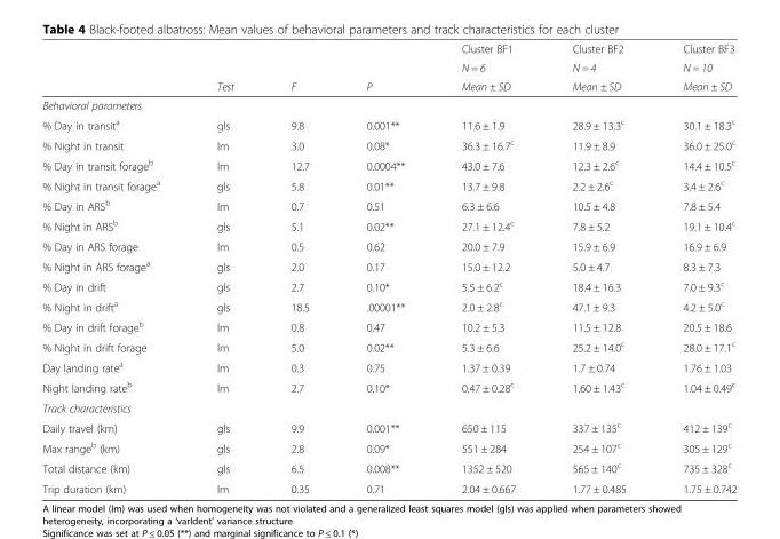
<table><thead><tr><td rowspan="3"></td><td rowspan="3">Test</td><td rowspan="3">F</td><td rowspan="3">P</td><td rowspan="3">Cluster BF1 N = 6 Mean ± SD</td><td rowspan="3">Cluster BF2 N = 4 Mean ± SD</td><td rowspan="3">Cluster BF3 N = 10 Mean ± SD</td></tr><tr></tr><tr></tr></thead><tbody><tr><td colspan="7">Behavioral parameters</td></tr><tr><td>% Day in transit<sup>a</sup></td><td>gls</td><td>9.8</td><td>0.001**</td><td>11.6 ± 1.9</td><td>28.9 ± 13.3<sup>c</sup></td><td>30.1 ± 18.3<sup>c</sup></td></tr><tr><td>% Night in transit</td><td>lm</td><td>3.0</td><td>0.08*</td><td>36.3 ± 16.7<sup>c</sup></td><td>11.9 ± 8.9</td><td>36.0 ± 25.0<sup>c</sup></td></tr><tr><td>% Day in transit forage<sup>b</sup></td><td>lm</td><td>12.7</td><td>0.0004**</td><td>43.0 ± 7.6</td><td>12.3 ± 2.6<sup>c</sup></td><td>14.4 ± 10.5<sup>c</sup></td></tr><tr><td>% Night in transit forage<sup>a</sup></td><td>gls</td><td>5.8</td><td>0.01**</td><td>13.7 ± 9.8</td><td>2.2 ± 2.6<sup>c</sup></td><td>3.4 ± 2.6<sup>c</sup></td></tr><tr><td>% Day in ARS<sup>b</sup></td><td>lm</td><td>0.7</td><td>0.51</td><td>6.3 ± 6.6</td><td>10.5 ± 4.8</td><td>7.8 ± 5.4</td></tr><tr><td>% Night in ARS<sup>b</sup></td><td>gls</td><td>5.1</td><td>0.02**</td><td>27.1 ± 12.4<sup>c</sup></td><td>7.8 ± 5.2</td><td>19.1 ± 10.4<sup>c</sup></td></tr><tr><td>% Day in ARS forage</td><td>lm</td><td>0.5</td><td>0.62</td><td>20.0 ± 7.9</td><td>15.9 ± 6.9</td><td>16.9 ± 6.9</td></tr><tr><td>% Night in ARS forage<sup>a</sup></td><td>gls</td><td>2.0</td><td>0.17</td><td>15.0 ± 12.2</td><td>5.0 ± 4.7</td><td>8.3 ± 7.3</td></tr><tr><td>% Day in drift</td><td>gls</td><td>2.7</td><td>0.10*</td><td>5.5 ± 6.2<sup>c</sup></td><td>18.4 ± 16.3</td><td>7.0 ± 9.3<sup>c</sup></td></tr><tr><td>% Night in drift<sup>a</sup></td><td>gls</td><td>18.5</td><td>.00001**</td><td>2.0 ± 2.8<sup>c</sup></td><td>47.1 ± 9.3</td><td>4.2 ± 5.0<sup>c</sup></td></tr><tr><td>% Day in drift forage<sup>b</sup></td><td>lm</td><td>0.8</td><td>0.47</td><td>10.2 ± 5.3</td><td>11.5 ± 12.8</td><td>20.5 ± 18.6</td></tr><tr><td>% Night in drift forage</td><td>lm</td><td>5.0</td><td>0.02**</td><td>5.3 ± 6.6</td><td>25.2 ± 14.0<sup>c</sup></td><td>28.0 ± 17.1<sup>c</sup></td></tr><tr><td>Day landing rate<sup>a</sup></td><td>lm</td><td>0.3</td><td>0.75</td><td>1.37 ± 0.39</td><td>1.7 ± 0.74</td><td>1.76 ± 1.03</td></tr><tr><td>Night landing rate<sup>b</sup></td><td>lm</td><td>2.7</td><td>0.10*</td><td>0.47 ± 0.28<sup>c</sup></td><td>1.60 ± 1.43<sup>c</sup></td><td>1.04 ± 0.49<sup>c</sup></td></tr><tr><td colspan="7">Track characteristics</td></tr><tr><td>Daily travel (km)</td><td>gls</td><td>9.9</td><td>0.001**</td><td>650 ± 115</td><td>337 ± 135<sup>c</sup></td><td>412 ± 139<sup>c</sup></td></tr><tr><td>Max range<sup>b</sup> (km)</td><td>gls</td><td>2.8</td><td>0.09*</td><td>551 ± 284</td><td>254 ± 107<sup>c</sup></td><td>305 ± 129<sup>c</sup></td></tr><tr><td>Total distance (km)</td><td>gls</td><td>6.5</td><td>0.008**</td><td>1352 ± 520</td><td>565 ± 140<sup>c</sup></td><td>735 ± 328<sup>c</sup></td></tr><tr><td>Trip duration (km)</td><td>lm</td><td>0.35</td><td>0.71</td><td>2.04 ± 0.667</td><td>1.77 ± 0.485</td><td>1.75 ± 0.742</td></tr></tbody></table>